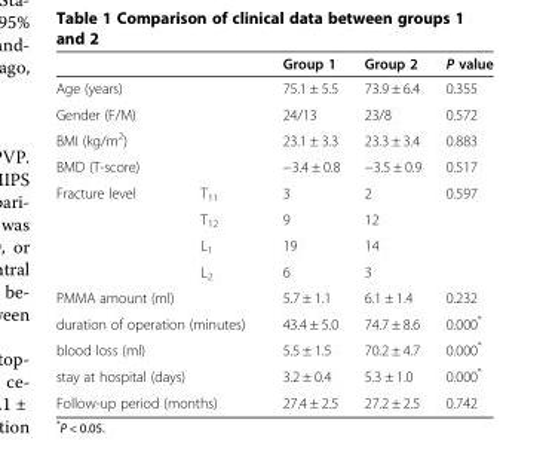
<table><thead><tr><td></td><td></td><td>Group 1</td><td>Group 2</td><td>P value</td></tr></thead><tbody><tr><td colspan="2">Age (years)</td><td>75.1 ± 5.5</td><td>73.9 ± 6.4</td><td>0.355</td></tr><tr><td colspan="2">Gender (F/M)</td><td>24/13</td><td>23/8</td><td>0.572</td></tr><tr><td colspan="2">BMI (kg/m<sup>2</sup>)</td><td>23.1 ± 3.3</td><td>23.3 ± 3.4</td><td>0.883</td></tr><tr><td colspan="2">BMD (T-score)</td><td>−3.4 ± 0.8</td><td>−3.5 ± 0.9</td><td>0.517</td></tr><tr><td rowspan="4">Fracture level</td><td>T<sub>11</sub></td><td>3</td><td>2</td><td rowspan="4">0.597</td></tr><tr><td>T<sub>12</sub></td><td>9</td><td>12</td></tr><tr><td>L<sub>1</sub></td><td>19</td><td>14</td></tr><tr><td>L<sub>2</sub></td><td>6</td><td>3</td></tr><tr><td colspan="2">PMMA amount (ml)</td><td>5.7 ± 1.1</td><td>6.1 ± 1.4</td><td>0.232</td></tr><tr><td colspan="2">duration of operation (minutes)</td><td>43.4 ± 5.0</td><td>74.7 ± 8.6</td><td>0.000*</td></tr><tr><td colspan="2">blood loss (ml)</td><td>5.5 ± 1.5</td><td>70.2 ± 4.7</td><td>0.000*</td></tr><tr><td colspan="2">stay at hospital (days)</td><td>3.2 ± 0.4</td><td>5.3 ± 1.0</td><td>0.000*</td></tr><tr><td colspan="2">Follow-up period (months)</td><td>27.4 ± 2.5</td><td>27.2 ± 2.5</td><td>0.742</td></tr></tbody></table>